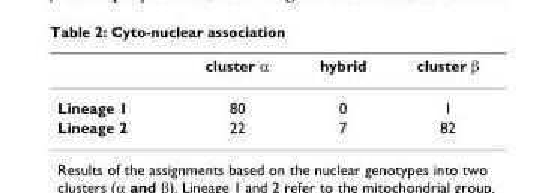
<table><thead><tr><td></td><td>cluster α</td><td>hybrid</td><td>cluster β</td></tr></thead><tbody><tr><td>Lineage 1</td><td>80</td><td>0</td><td>1</td></tr><tr><td>Lineage 2</td><td>22</td><td>7</td><td>82</td></tr></tbody></table>